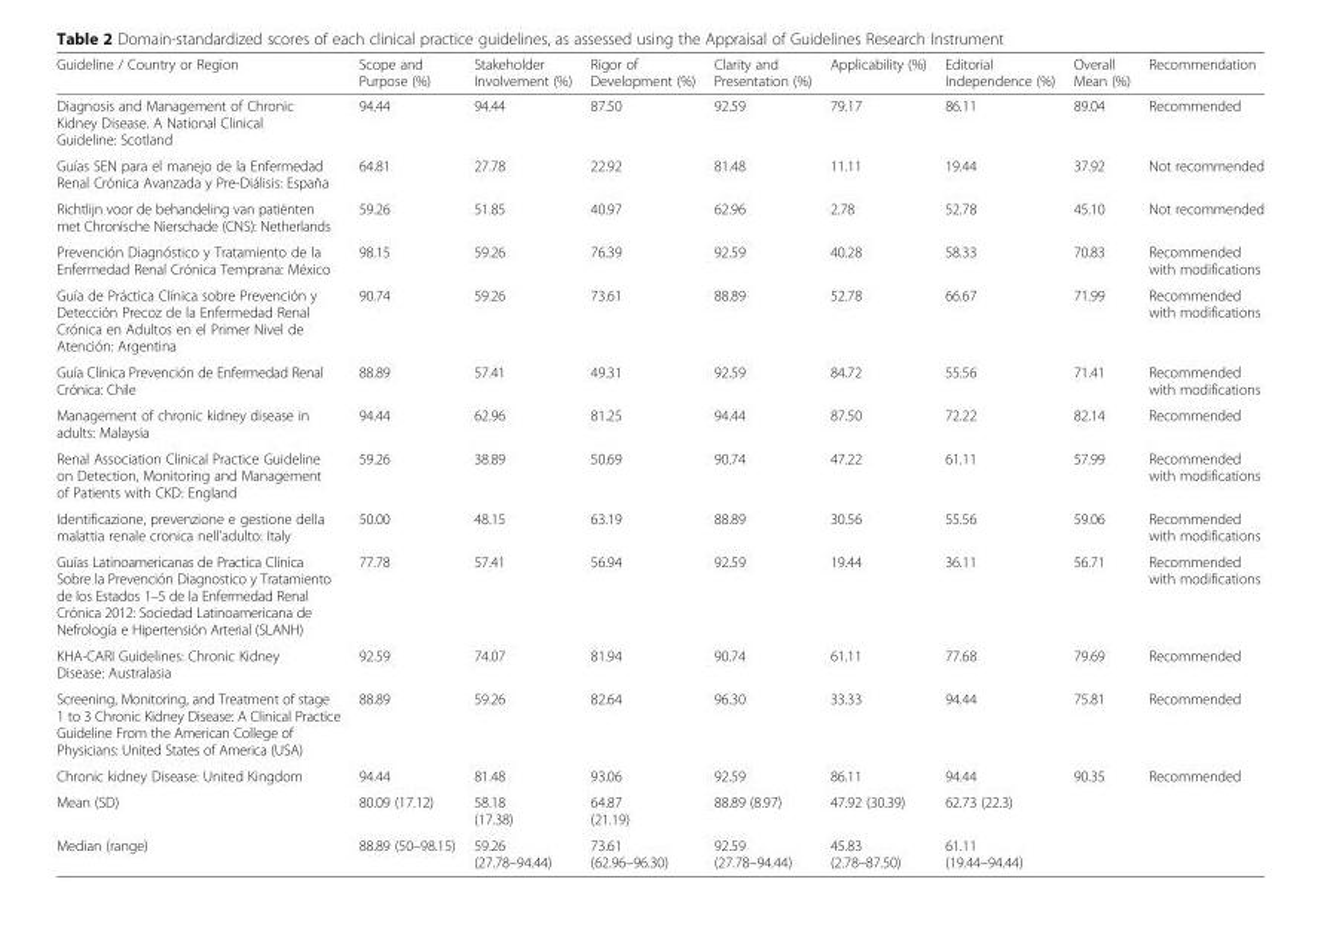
<table><thead><tr><td>Guideline / Country or Region</td><td>Scope and Purpose (%)</td><td>Stakeholder Involvement (%)</td><td>Rigor of Development (%)</td><td>Clarity and Presentation (%)</td><td>Applicability (%)</td><td>Editorial Independence (%)</td><td>Overall Mean (%)</td><td>Recommendation</td></tr></thead><tbody><tr><td>Diagnosis and Management of Chronic Kidney Disease. A National Clinical Guideline: Scotland</td><td>94.44</td><td>94.44</td><td>87.50</td><td>92.59</td><td>79.17</td><td>86.11</td><td>89.04</td><td>Recommended</td></tr><tr><td>Guías SEN para el manejo de la Enfermedad Renal Crónica Avanzada y Pre-Diálisis: España</td><td>64.81</td><td>27.78</td><td>22.92</td><td>81.48</td><td>11.11</td><td>19.44</td><td>37.92</td><td>Not recommended</td></tr><tr><td>Richtlijn voor de behandeling van patiënten met Chronische Nierschade (CNS): Netherlands</td><td>59.26</td><td>51.85</td><td>40.97</td><td>62.96</td><td>2.78</td><td>52.78</td><td>45.10</td><td>Not recommended</td></tr><tr><td>Prevención Diagnóstico y Tratamiento de la Enfermedad Renal Crónica Temprana: México</td><td>98.15</td><td>59.26</td><td>76.39</td><td>92.59</td><td>40.28</td><td>58.33</td><td>70.83</td><td>Recommended with modifications</td></tr><tr><td>Guía de Práctica Clínica sobre Prevención y Detección Precoz de la Enfermedad Renal Crónica en Adultos en el Primer Nivel de Atención: Argentina</td><td>90.74</td><td>59.26</td><td>73.61</td><td>88.89</td><td>52.78</td><td>66.67</td><td>71.99</td><td>Recommended with modifications</td></tr><tr><td>Guía Clínica Prevención de Enfermedad Renal Crónica: Chile</td><td>88.89</td><td>57.41</td><td>49.31</td><td>92.59</td><td>84.72</td><td>55.56</td><td>71.41</td><td>Recommended with modifications</td></tr><tr><td>Management of chronic kidney disease in adults: Malaysia</td><td>94.44</td><td>62.96</td><td>81.25</td><td>94.44</td><td>87.50</td><td>72.22</td><td>82.14</td><td>Recommended</td></tr><tr><td>Renal Association Clinical Practice Guideline on Detection, Monitoring and Management of Patients with CKD: England</td><td>59.26</td><td>38.89</td><td>50.69</td><td>90.74</td><td>47.22</td><td>61.11</td><td>57.99</td><td>Recommended with modifications</td></tr><tr><td>Identificazione, prevenzione e gestione della malattia renale cronica nell’adulto: Italy</td><td>50.00</td><td>48.15</td><td>63.19</td><td>88.89</td><td>30.56</td><td>55.56</td><td>59.06</td><td>Recommended with modifications</td></tr><tr><td>Guías Latinoamericanas de Practica Clínica Sobre la Prevención Diagnostico y Tratamiento de los Estados 1–5 de la Enfermedad Renal Crónica 2012: Sociedad Latinoamericana de Nefrología e Hipertensión Arterial (SLANH)</td><td>77.78</td><td>57.41</td><td>56.94</td><td>92.59</td><td>19.44</td><td>36.11</td><td>56.71</td><td>Recommended with modifications</td></tr><tr><td>KHA-CARI Guidelines: Chronic Kidney Disease: Australasia</td><td>92.59</td><td>74.07</td><td>81.94</td><td>90.74</td><td>61.11</td><td>77.68</td><td>79.69</td><td>Recommended</td></tr><tr><td>Screening, Monitoring, and Treatment of stage 1 to 3 Chronic Kidney Disease: A Clinical Practice Guideline From the American College of Physicians: United States of America (USA)</td><td>88.89</td><td>59.26</td><td>82.64</td><td>96.30</td><td>33.33</td><td>94.44</td><td>75.81</td><td>Recommended</td></tr><tr><td>Chronic kidney Disease: United Kingdom</td><td>94.44</td><td>81.48</td><td>93.06</td><td>92.59</td><td>86.11</td><td>94.44</td><td>90.35</td><td>Recommended</td></tr><tr><td>Mean (SD)</td><td>80.09 (17.12)</td><td>58.18 (17.38)</td><td>64.87 (21.19)</td><td>88.89 (8.97)</td><td>47.92 (30.39)</td><td>62.73 (22.3)</td><td></td><td></td></tr><tr><td>Median (range)</td><td>88.89 (50–98.15)</td><td>59.26 (27.78–94.44)</td><td>73.61 (62.96–96.30)</td><td>92.59 (27.78–94.44)</td><td>45.83 (2.78–87.50)</td><td>61.11 (19.44–94.44)</td><td></td><td></td></tr></tbody></table>